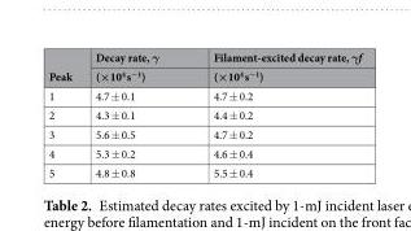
<table><thead><tr><td rowspan="2">Peak</td><td rowspan="2">Decay rate, γ (×10<sup>4</sup> s<sup>−1</sup>)</td><td rowspan="2">Filament-excited decay rate, γf (×10<sup>4</sup> s<sup>−1</sup>)</td></tr><tr></tr></thead><tbody><tr><td>1</td><td>4.7 ± 0.1</td><td>4.7 ± 0.2</td></tr><tr><td>2</td><td>4.3 ± 0.1</td><td>4.4 ± 0.2</td></tr><tr><td>3</td><td>5.6 ± 0.5</td><td>4.7 ± 0.2</td></tr><tr><td>4</td><td>5.3 ± 0.2</td><td>4.6 ± 0.4</td></tr><tr><td>5</td><td>4.8 ± 0.8</td><td>5.5 ± 0.4</td></tr></tbody></table>